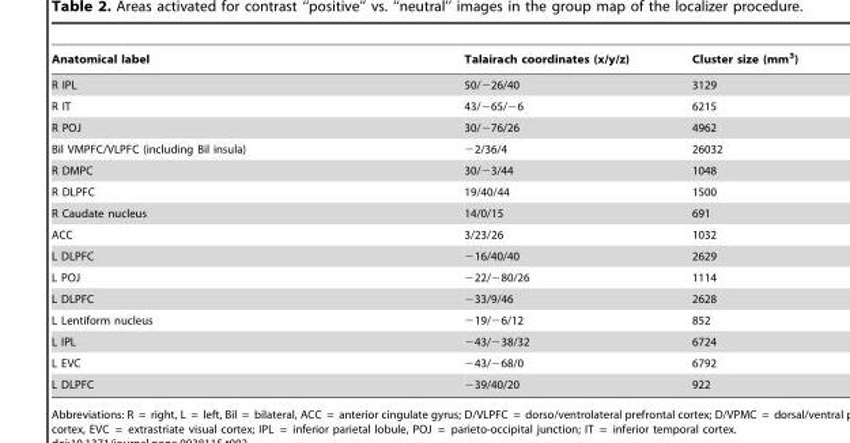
<table><thead><tr><td>Anatomical label</td><td>Talairach coordinates (x/y/z)</td><td>Cluster size (mm<sup>3</sup>)</td></tr></thead><tbody><tr><td>R IPL</td><td>50/−26/40</td><td>3129</td></tr><tr><td>R IT</td><td>43/−65/−6</td><td>6215</td></tr><tr><td>R POJ</td><td>30/−76/26</td><td>4962</td></tr><tr><td>Bil VMPFC/VLPFC (including Bil insula)</td><td>−2/36/4</td><td>26032</td></tr><tr><td>R DMPC</td><td>30/−3/44</td><td>1048</td></tr><tr><td>R DLPFC</td><td>19/40/44</td><td>1500</td></tr><tr><td>R Caudate nucleus</td><td>14/0/15</td><td>691</td></tr><tr><td>ACC</td><td>3/23/26</td><td>1032</td></tr><tr><td>L DLPFC</td><td>−16/40/40</td><td>2629</td></tr><tr><td>L POJ</td><td>−22/−80/26</td><td>1114</td></tr><tr><td>L DLPFC</td><td>−33/9/46</td><td>2628</td></tr><tr><td>L Lentiform nucleus</td><td>−19/−6/12</td><td>852</td></tr><tr><td>L IPL</td><td>−43/−38/32</td><td>6724</td></tr><tr><td>L EVC</td><td>−43/−68/0</td><td>6792</td></tr><tr><td>L DLPFC</td><td>−39/40/20</td><td>922</td></tr></tbody></table>